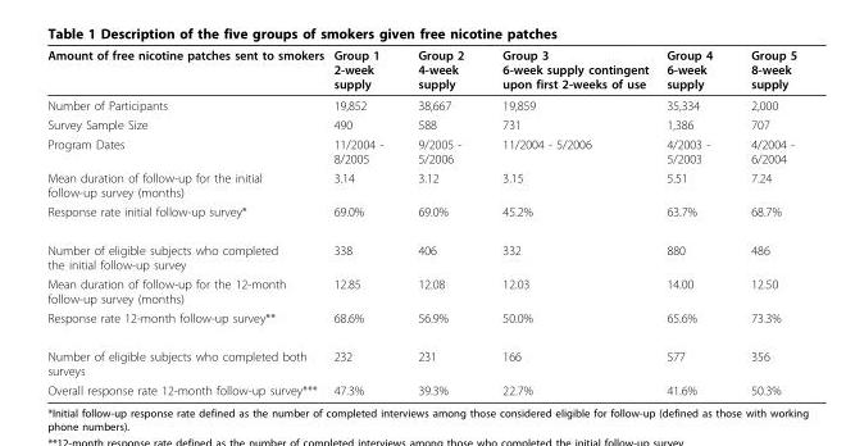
<table><thead><tr><td>Amount of free nicotine patches sent to smokers</td><td>Group 1 2-week supply</td><td>Group 2 4-week supply</td><td>Group 3 6-week supply contingent upon first 2-weeks of use</td><td>Group 4 6-week supply</td><td>Group 5 8-week supply</td></tr></thead><tbody><tr><td>Number of Participants</td><td>19,852</td><td>38,667</td><td>19,859</td><td>35,334</td><td>2,000</td></tr><tr><td>Survey Sample Size</td><td>490</td><td>588</td><td>731</td><td>1,386</td><td>707</td></tr><tr><td>Program Dates</td><td>11/2004 - 8/2005</td><td>9/2005 - 5/2006</td><td>11/2004 - 5/2006</td><td>4/2003 - 5/2003</td><td>4/2004 - 6/2004</td></tr><tr><td>Mean duration of follow-up for the initial follow-up survey (months)</td><td>3.14</td><td>3.12</td><td>3.15</td><td>5.51</td><td>7.24</td></tr><tr><td>Response rate initial follow-up survey*</td><td>69.0%</td><td>69.0%</td><td>45.2%</td><td>63.7%</td><td>68.7%</td></tr><tr><td>Number of eligible subjects who completed the initial follow-up survey</td><td>338</td><td>406</td><td>332</td><td>880</td><td>486</td></tr><tr><td>Mean duration of follow-up for the 12-month follow-up survey (months)</td><td>12.85</td><td>12.08</td><td>12.03</td><td>14.00</td><td>12.50</td></tr><tr><td>Response rate 12-month follow-up survey**</td><td>68.6%</td><td>56.9%</td><td>50.0%</td><td>65.6%</td><td>73.3%</td></tr><tr><td>Number of eligible subjects who completed both surveys</td><td>232</td><td>231</td><td>166</td><td>577</td><td>356</td></tr><tr><td>Overall response rate 12-month follow-up survey***</td><td>47.3%</td><td>39.3%</td><td>22.7%</td><td>41.6%</td><td>50.3%</td></tr></tbody></table>